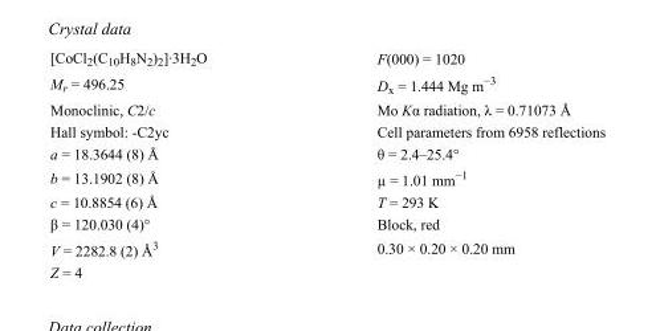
<table><tbody><tr><td>[CoCl<sub>2</sub>(C<sub>10</sub>H<sub>8</sub>N<sub>2</sub>)<sub>2</sub>]·3H<sub>2</sub>O</td><td>F(000) = 1020</td></tr><tr><td>M<sub>r</sub> = 496.25</td><td>D<sub>x</sub> = 1.444 Mg m<sup>−3</sup></td></tr><tr><td>Monoclinic, C2/c</td><td>Mo Kα radiation, λ = 0.71073 Å</td></tr><tr><td>Hall symbol: -C2yc</td><td>Cell parameters from 6958 reflections</td></tr><tr><td>a = 18.3644 (8) Å</td><td>θ = 2.4–25.4°</td></tr><tr><td>b = 13.1902 (8) Å</td><td>µ = 1.01 mm<sup>−1</sup></td></tr><tr><td>c = 10.8854 (6) Å</td><td>T = 293 K</td></tr><tr><td>β = 120.030 (4)°</td><td>Block, red</td></tr><tr><td>V = 2282.8 (2) Å<sup>3</sup></td><td>0.30 × 0.20 × 0.20 mm</td></tr><tr><td>Z = 4</td><td></td></tr></tbody></table>